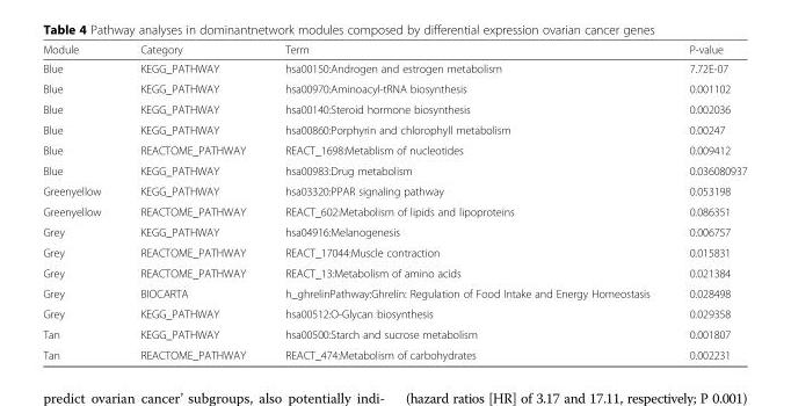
<table><thead><tr><td>Module</td><td>Category</td><td>Term</td><td>P-value</td></tr></thead><tbody><tr><td>Blue</td><td>KEGG_PATHWAY</td><td>hsa00150:Androgen and estrogen metabolism</td><td>7.72E-07</td></tr><tr><td>Blue</td><td>KEGG_PATHWAY</td><td>hsa00970:Aminoacyl-tRNA biosynthesis</td><td>0.001102</td></tr><tr><td>Blue</td><td>KEGG_PATHWAY</td><td>hsa00140:Steroid hormone biosynthesis</td><td>0.002036</td></tr><tr><td>Blue</td><td>KEGG_PATHWAY</td><td>hsa00860:Porphyrin and chlorophyll metabolism</td><td>0.00247</td></tr><tr><td>Blue</td><td>REACTOME_PATHWAY</td><td>REACT_1698:Metablism of nucleotides</td><td>0.009412</td></tr><tr><td>Blue</td><td>KEGG_PATHWAY</td><td>hsa00983:Drug metabolism</td><td>0.036080937</td></tr><tr><td>Greenyellow</td><td>KEGG_PATHWAY</td><td>hsa03320:PPAR signaling pathway</td><td>0.053198</td></tr><tr><td>Greenyellow</td><td>REACTOME_PATHWAY</td><td>REACT_602:Metabolism of lipids and lipoproteins</td><td>0.086351</td></tr><tr><td>Grey</td><td>KEGG_PATHWAY</td><td>hsa04916:Melanogenesis</td><td>0.006757</td></tr><tr><td>Grey</td><td>REACTOME_PATHWAY</td><td>REACT_17044:Muscle contraction</td><td>0.015831</td></tr><tr><td>Grey</td><td>REACTOME_PATHWAY</td><td>REACT_13:Metabolism of amino acids</td><td>0.021384</td></tr><tr><td>Grey</td><td>BIOCARTA</td><td>h_ghrelinPathway:Ghrelin: Regulation of Food Intake and Energy Homeostasis</td><td>0.028498</td></tr><tr><td>Grey</td><td>KEGG_PATHWAY</td><td>hsa00512:O-Glycan biosynthesis</td><td>0.029358</td></tr><tr><td>Tan</td><td>KEGG_PATHWAY</td><td>hsa00500:Starch and sucrose metabolism</td><td>0.001807</td></tr><tr><td>Tan</td><td>REACTOME_PATHWAY</td><td>REACT_474:Metabolism of carbohydrates</td><td>0.002231</td></tr></tbody></table>